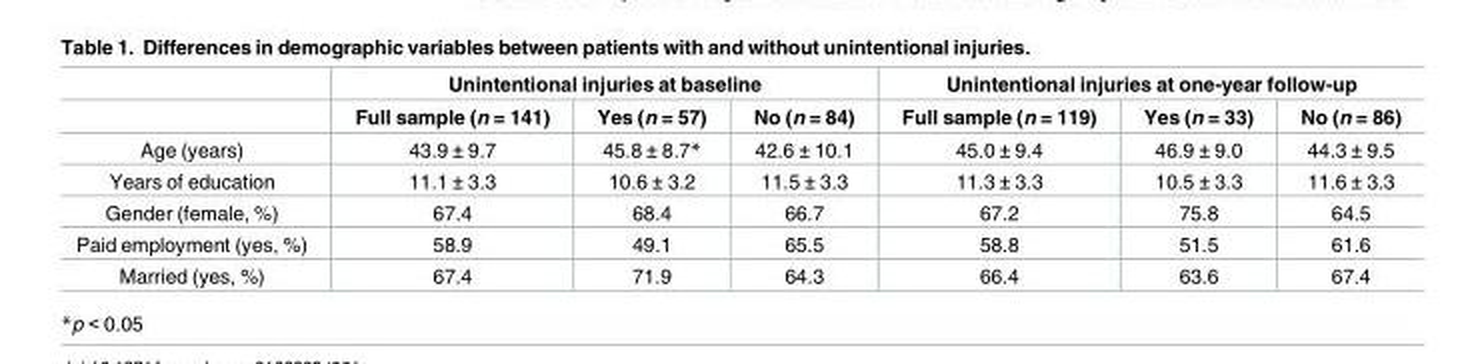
<table><thead><tr><td rowspan="2"></td><td colspan="3">Unintentional injuries at baseline</td><td colspan="3">Unintentional injuries at one-year follow-up</td></tr><tr><td>Full sample (n = 141)</td><td>Yes (n = 57)</td><td>No (n = 84)</td><td>Full sample (n = 119)</td><td>Yes (n = 33)</td><td>No (n = 86)</td></tr></thead><tbody><tr><td>Age (years)</td><td>43.9 ± 9.7</td><td>45.8 ± 8.7*</td><td>42.6 ± 10.1</td><td>45.0 ± 9.4</td><td>46.9 ± 9.0</td><td>44.3 ± 9.5</td></tr><tr><td>Years of education</td><td>11.1 ± 3.3</td><td>10.6 ± 3.2</td><td>11.5 ± 3.3</td><td>11.3 ± 3.3</td><td>10.5 ± 3.3</td><td>11.6 ± 3.3</td></tr><tr><td>Gender (female, %)</td><td>67.4</td><td>68.4</td><td>66.7</td><td>67.2</td><td>75.8</td><td>64.5</td></tr><tr><td>Paid employment (yes, %)</td><td>58.9</td><td>49.1</td><td>65.5</td><td>58.8</td><td>51.5</td><td>61.6</td></tr><tr><td>Married (yes, %)</td><td>67.4</td><td>71.9</td><td>64.3</td><td>66.4</td><td>63.6</td><td>67.4</td></tr></tbody></table>